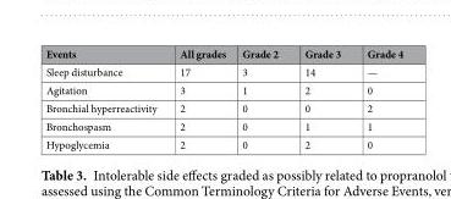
<table><thead><tr><td>Events</td><td>All grades</td><td>Grade 2</td><td>Grade 3</td><td>Grade 4</td></tr></thead><tbody><tr><td>Sleep disturbance</td><td>17</td><td>3</td><td>14</td><td>—</td></tr><tr><td>Agitation</td><td>3</td><td>1</td><td>2</td><td>0</td></tr><tr><td>Bronchial hyperreactivity</td><td>2</td><td>0</td><td>0</td><td>2</td></tr><tr><td>Bronchospasm</td><td>2</td><td>0</td><td>1</td><td>1</td></tr><tr><td>Hypoglycemia</td><td>2</td><td>0</td><td>2</td><td>0</td></tr></tbody></table>